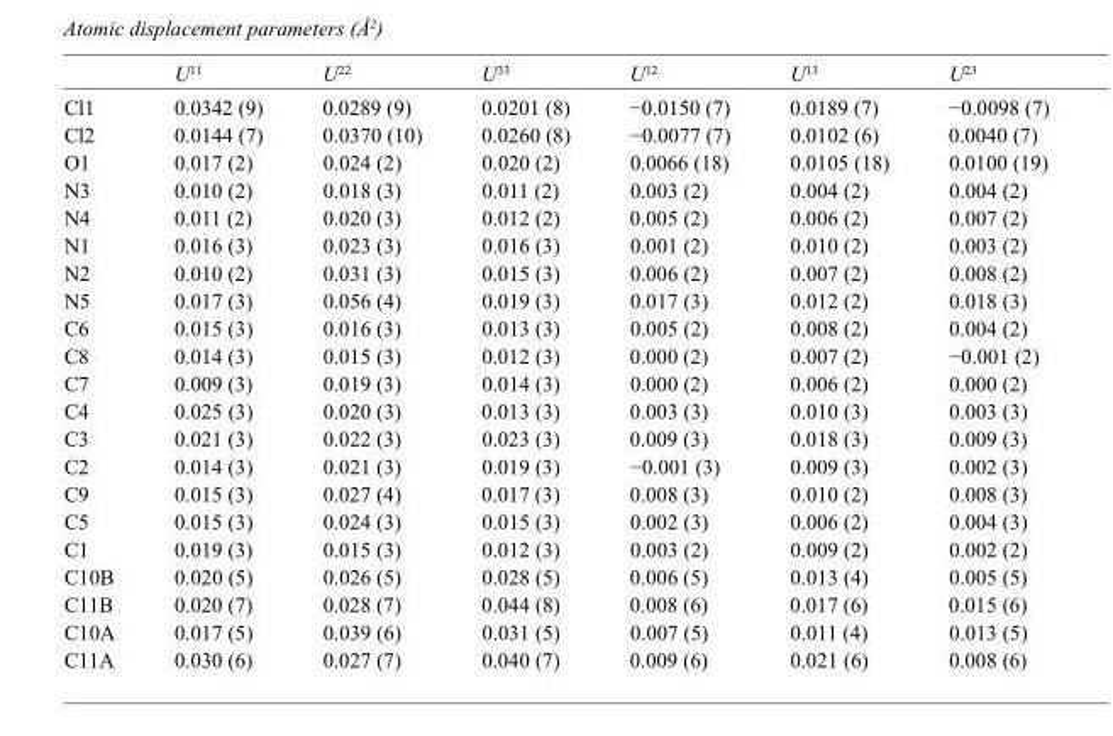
<table><thead><tr><td></td><td>U<sup>11</sup></td><td>U<sup>22</sup></td><td>U<sup>33</sup></td><td>U<sup>12</sup></td><td>U<sup>13</sup></td><td>U<sup>23</sup></td></tr></thead><tbody><tr><td>Cl1</td><td>0.0342 (9)</td><td>0.0289 (9)</td><td>0.0201 (8)</td><td>−0.0150 (7)</td><td>0.0189 (7)</td><td>−0.0098 (7)</td></tr><tr><td>Cl2</td><td>0.0144 (7)</td><td>0.0370 (10)</td><td>0.0260 (8)</td><td>−0.0077 (7)</td><td>0.0102 (6)</td><td>0.0040 (7)</td></tr><tr><td>O1</td><td>0.017 (2)</td><td>0.024 (2)</td><td>0.020 (2)</td><td>0.0066 (18)</td><td>0.0105 (18)</td><td>0.0100 (19)</td></tr><tr><td>N3</td><td>0.010 (2)</td><td>0.018 (3)</td><td>0.011 (2)</td><td>0.003 (2)</td><td>0.004 (2)</td><td>0.004 (2)</td></tr><tr><td>N4</td><td>0.011 (2)</td><td>0.020 (3)</td><td>0.012 (2)</td><td>0.005 (2)</td><td>0.006 (2)</td><td>0.007 (2)</td></tr><tr><td>N1</td><td>0.016 (3)</td><td>0.023 (3)</td><td>0.016 (3)</td><td>0.001 (2)</td><td>0.010 (2)</td><td>0.003 (2)</td></tr><tr><td>N2</td><td>0.010 (2)</td><td>0.031 (3)</td><td>0.015 (3)</td><td>0.006 (2)</td><td>0.007 (2)</td><td>0.008 (2)</td></tr><tr><td>N5</td><td>0.017 (3)</td><td>0.056 (4)</td><td>0.019 (3)</td><td>0.017 (3)</td><td>0.012 (2)</td><td>0.018 (3)</td></tr><tr><td>C6</td><td>0.015 (3)</td><td>0.016 (3)</td><td>0.013 (3)</td><td>0.005 (2)</td><td>0.008 (2)</td><td>0.004 (2)</td></tr><tr><td>C8</td><td>0.014 (3)</td><td>0.015 (3)</td><td>0.012 (3)</td><td>0.000 (2)</td><td>0.007 (2)</td><td>−0.001 (2)</td></tr><tr><td>C7</td><td>0.009 (3)</td><td>0.019 (3)</td><td>0.014 (3)</td><td>0.000 (2)</td><td>0.006 (2)</td><td>0.000 (2)</td></tr><tr><td>C4</td><td>0.025 (3)</td><td>0.020 (3)</td><td>0.013 (3)</td><td>0.003 (3)</td><td>0.010 (3)</td><td>0.003 (3)</td></tr><tr><td>C3</td><td>0.021 (3)</td><td>0.022 (3)</td><td>0.023 (3)</td><td>0.009 (3)</td><td>0.018 (3)</td><td>0.009 (3)</td></tr><tr><td>C2</td><td>0.014 (3)</td><td>0.021 (3)</td><td>0.019 (3)</td><td>−0.001 (3)</td><td>0.009 (3)</td><td>0.002 (3)</td></tr><tr><td>C9</td><td>0.015 (3)</td><td>0.027 (4)</td><td>0.017 (3)</td><td>0.008 (3)</td><td>0.010 (2)</td><td>0.008 (3)</td></tr><tr><td>C5</td><td>0.015 (3)</td><td>0.024 (3)</td><td>0.015 (3)</td><td>0.002 (3)</td><td>0.006 (2)</td><td>0.004 (3)</td></tr><tr><td>C1</td><td>0.019 (3)</td><td>0.015 (3)</td><td>0.012 (3)</td><td>0.003 (2)</td><td>0.009 (2)</td><td>0.002 (2)</td></tr><tr><td>C10B</td><td>0.020 (5)</td><td>0.026 (5)</td><td>0.028 (5)</td><td>0.006 (5)</td><td>0.013 (4)</td><td>0.005 (5)</td></tr><tr><td>C11B</td><td>0.020 (7)</td><td>0.028 (7)</td><td>0.044 (8)</td><td>0.008 (6)</td><td>0.017 (6)</td><td>0.015 (6)</td></tr><tr><td>C10A</td><td>0.017 (5)</td><td>0.039 (6)</td><td>0.031 (5)</td><td>0.007 (5)</td><td>0.011 (4)</td><td>0.013 (5)</td></tr><tr><td>C11A</td><td>0.030 (6)</td><td>0.027 (7)</td><td>0.040 (7)</td><td>0.009 (6)</td><td>0.021 (6)</td><td>0.008 (6)</td></tr></tbody></table>